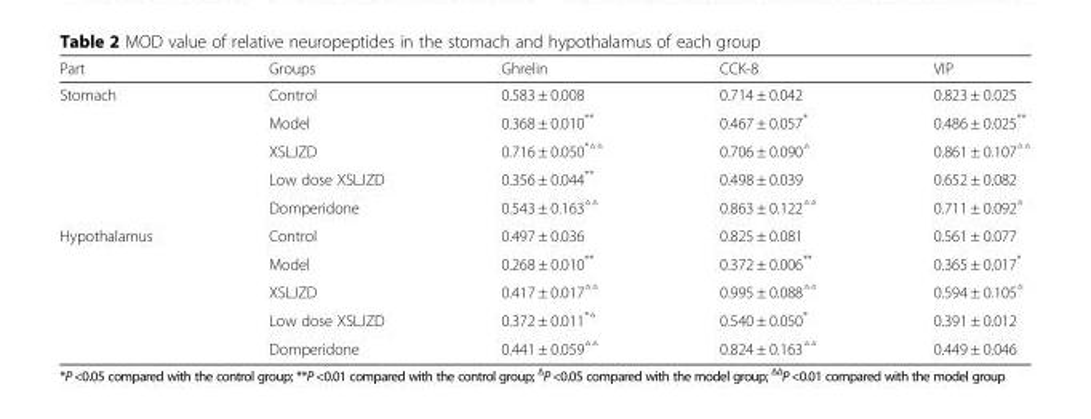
<table><thead><tr><td>Part</td><td>Groups</td><td>Ghrelin</td><td>CCK-8</td><td>VIP</td></tr></thead><tbody><tr><td rowspan="5">Stomach</td><td>Control</td><td>0.583 ± 0.008</td><td>0.714 ± 0.042</td><td>0.823 ± 0.025</td></tr><tr><td>Model</td><td>0.368 ± 0.010**</td><td>0.467 ± 0.057*</td><td>0.486 ± 0.025**</td></tr><tr><td>XSLJZD</td><td>0.716 ± 0.050<sup>*△△</sup></td><td>0.706 ± 0.090<sup>△</sup></td><td>0.861 ± 0.107<sup>△△</sup></td></tr><tr><td>Low dose XSLJZD</td><td>0.356 ± 0.044**</td><td>0.498 ± 0.039</td><td>0.652 ± 0.082</td></tr><tr><td>Domperidone</td><td>0.543 ± 0.163<sup>△△</sup></td><td>0.863 ± 0.122<sup>△△</sup></td><td>0.711 ± 0.092<sup>△</sup></td></tr><tr><td rowspan="5">Hypothalamus</td><td>Control</td><td>0.497 ± 0.036</td><td>0.825 ± 0.081</td><td>0.561 ± 0.077</td></tr><tr><td>Model</td><td>0.268 ± 0.010**</td><td>0.372 ± 0.006**</td><td>0.365 ± 0.017*</td></tr><tr><td>XSLJZD</td><td>0.417 ± 0.017<sup>△△</sup></td><td>0.995 ± 0.088<sup>△△</sup></td><td>0.594 ± 0.105<sup>△</sup></td></tr><tr><td>Low dose XSLJZD</td><td>0.372 ± 0.011<sup>*△</sup></td><td>0.540 ± 0.050*</td><td>0.391 ± 0.012</td></tr><tr><td>Domperidone</td><td>0.441 ± 0.059<sup>△△</sup></td><td>0.824 ± 0.163<sup>△△</sup></td><td>0.449 ± 0.046</td></tr></tbody></table>